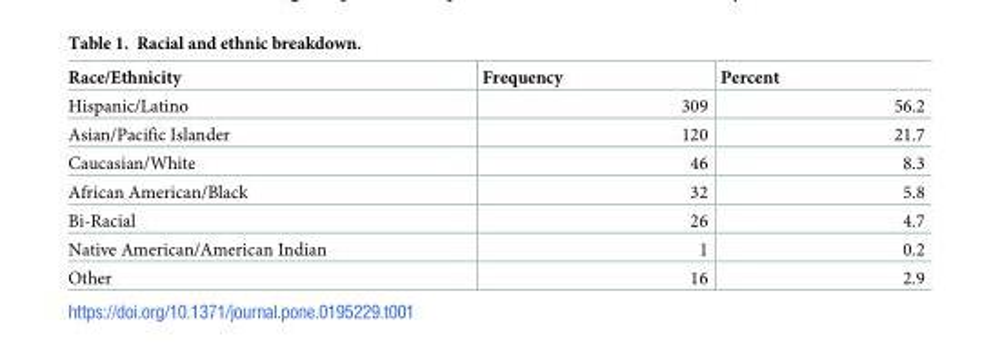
<table><thead><tr><td>Race/Ethnicity</td><td>Frequency</td><td>Percent</td></tr></thead><tbody><tr><td>Hispanic/Latino</td><td>309</td><td>56.2</td></tr><tr><td>Asian/Pacific Islander</td><td>120</td><td>21.7</td></tr><tr><td>Caucasian/White</td><td>46</td><td>8.3</td></tr><tr><td>African American/Black</td><td>32</td><td>5.8</td></tr><tr><td>Bi-Racial</td><td>26</td><td>4.7</td></tr><tr><td>Native American/American Indian</td><td>1</td><td>0.2</td></tr><tr><td>Other</td><td>16</td><td>2.9</td></tr></tbody></table>